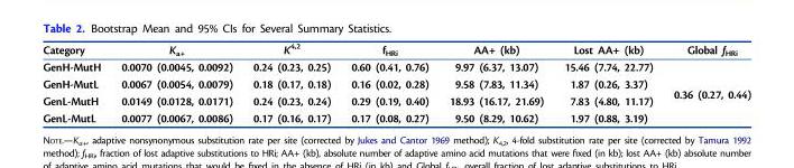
<table><thead><tr><td>Category</td><td>K<sub>a+</sub></td><td>K<sup>4,2</sup></td><td>f<sub>HRi</sub></td><td>AA+ (kb)</td><td>Lost AA+ (kb)</td><td>Global f<sub>HRi</sub></td></tr></thead><tbody><tr><td>GenH-MutH</td><td>0.0070 (0.0045, 0.0092)</td><td>0.24 (0.23, 0.25)</td><td>0.60 (0.41, 0.76)</td><td>9.97 (6.37, 13.07)</td><td>15.46 (7.74, 22.77)</td><td rowspan="4">0.36 (0.27, 0.44)</td></tr><tr><td>GenH-MutL</td><td>0.0067 (0.0054, 0.0079)</td><td>0.18 (0.17, 0.18)</td><td>0.16 (0.02, 0.28)</td><td>9.58 (7.83, 11.34)</td><td>1.87 (0.26, 3.37)</td></tr><tr><td>GenL-MutH</td><td>0.0149 (0.0128, 0.0171)</td><td>0.24 (0.23, 0.24)</td><td>0.29 (0.19, 0.40)</td><td>18.93 (16.17, 21.69)</td><td>7.83 (4.80, 11.17)</td></tr><tr><td>GenL-MutL</td><td>0.0077 (0.0067, 0.0086)</td><td>0.17 (0.16, 0.17)</td><td>0.17 (0.08, 0.27)</td><td>9.50 (8.29, 10.62)</td><td>1.97 (0.88, 3.19)</td></tr></tbody></table>